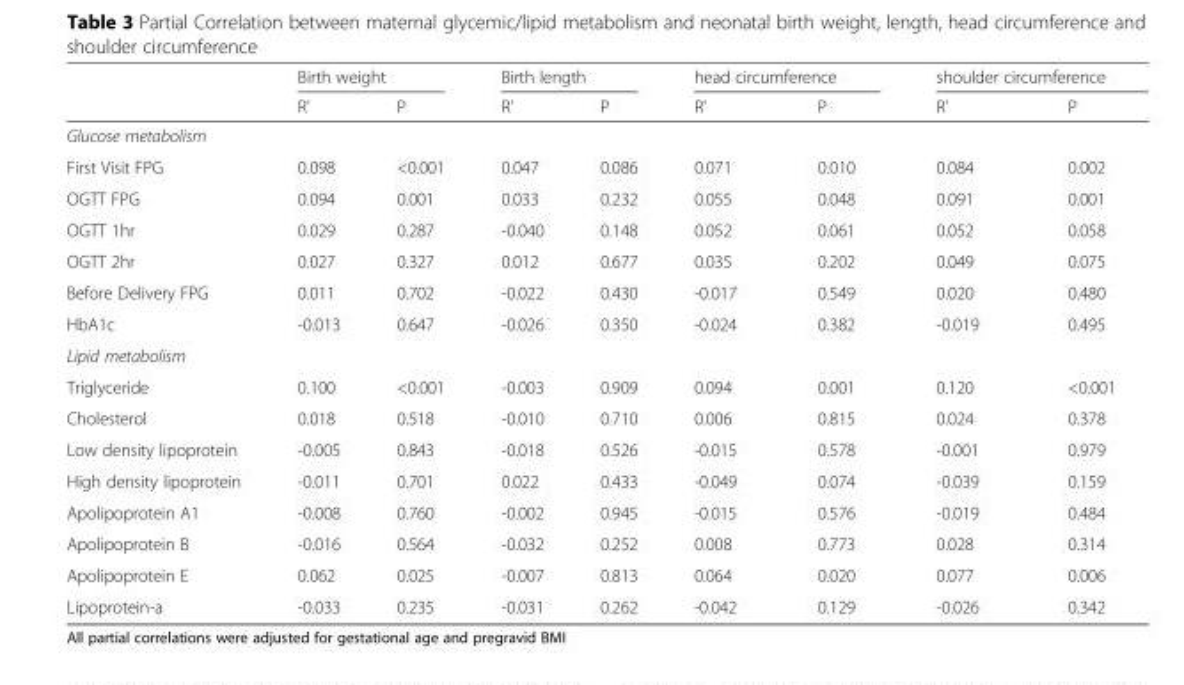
<table><thead><tr><td rowspan="2"></td><td colspan="2">Birth weight</td><td colspan="2">Birth length</td><td colspan="2">head circumference</td><td colspan="2">shoulder circumference</td></tr><tr><td>R&#x27;</td><td>P</td><td>R&#x27;</td><td>P</td><td>R&#x27;</td><td>P</td><td>R&#x27;</td><td>P</td></tr></thead><tbody><tr><td colspan="9">Glucose metabolism</td></tr><tr><td>First Visit FPG</td><td>0.098</td><td>&lt;0.001</td><td>0.047</td><td>0.086</td><td>0.071</td><td>0.010</td><td>0.084</td><td>0.002</td></tr><tr><td>OGTT FPG</td><td>0.094</td><td>0.001</td><td>0.033</td><td>0.232</td><td>0.055</td><td>0.048</td><td>0.091</td><td>0.001</td></tr><tr><td>OGTT 1hr</td><td>0.029</td><td>0.287</td><td>-0.040</td><td>0.148</td><td>0.052</td><td>0.061</td><td>0.052</td><td>0.058</td></tr><tr><td>OGTT 2hr</td><td>0.027</td><td>0.327</td><td>0.012</td><td>0.677</td><td>0.035</td><td>0.202</td><td>0.049</td><td>0.075</td></tr><tr><td>Before Delivery FPG</td><td>0.011</td><td>0.702</td><td>-0.022</td><td>0.430</td><td>-0.017</td><td>0.549</td><td>0.020</td><td>0.480</td></tr><tr><td>HbA1c</td><td>-0.013</td><td>0.647</td><td>-0.026</td><td>0.350</td><td>-0.024</td><td>0.382</td><td>-0.019</td><td>0.495</td></tr><tr><td colspan="9">Lipid metabolism</td></tr><tr><td>Triglyceride</td><td>0.100</td><td>&lt;0.001</td><td>-0.003</td><td>0.909</td><td>0.094</td><td>0.001</td><td>0.120</td><td>&lt;0.001</td></tr><tr><td>Cholesterol</td><td>0.018</td><td>0.518</td><td>-0.010</td><td>0.710</td><td>0.006</td><td>0.815</td><td>0.024</td><td>0.378</td></tr><tr><td>Low density lipoprotein</td><td>-0.005</td><td>0.843</td><td>-0.018</td><td>0.526</td><td>-0.015</td><td>0.578</td><td>-0.001</td><td>0.979</td></tr><tr><td>High density lipoprotein</td><td>-0.011</td><td>0.701</td><td>0.022</td><td>0.433</td><td>-0.049</td><td>0.074</td><td>-0.039</td><td>0.159</td></tr><tr><td>Apolipoprotein A1</td><td>-0.008</td><td>0.760</td><td>-0.002</td><td>0.945</td><td>-0.015</td><td>0.576</td><td>-0.019</td><td>0.484</td></tr><tr><td>Apolipoprotein B</td><td>-0.016</td><td>0.564</td><td>-0.032</td><td>0.252</td><td>0.008</td><td>0.773</td><td>0.028</td><td>0.314</td></tr><tr><td>Apolipoprotein E</td><td>0.062</td><td>0.025</td><td>-0.007</td><td>0.813</td><td>0.064</td><td>0.020</td><td>0.077</td><td>0.006</td></tr><tr><td>Lipoprotein-a</td><td>-0.033</td><td>0.235</td><td>-0.031</td><td>0.262</td><td>-0.042</td><td>0.129</td><td>-0.026</td><td>0.342</td></tr></tbody></table>